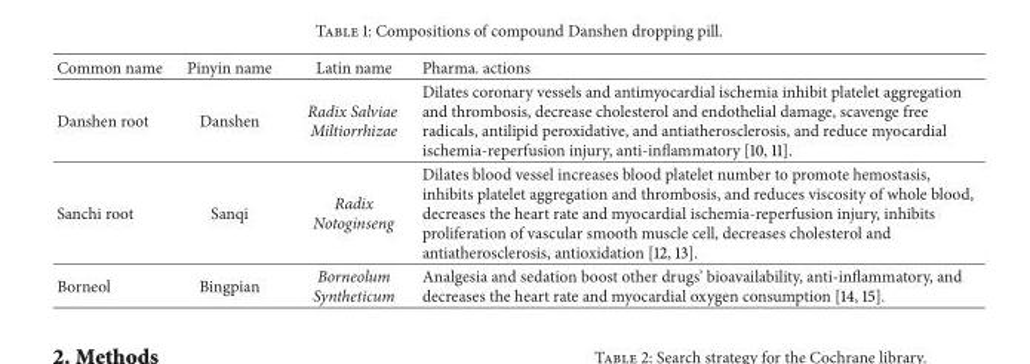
<table><thead><tr><td>Common name</td><td>Pinyin name</td><td>Latin name</td><td>Pharma. actions</td></tr></thead><tbody><tr><td>Danshen root</td><td>Danshen</td><td>Radix Salviae Miltiorrhizae</td><td>Dilates coronary vessels and antimyocardial ischemia inhibit platelet aggregation and thrombosis, decrease cholesterol and endothelial damage, scavenge free radicals, antilipid peroxidative, and antiatherosclerosis, and reduce myocardial ischemia-reperfusion injury, anti-inflammatory [10, 11].</td></tr><tr><td>Sanchi root</td><td>Sanqi</td><td>Radix Notoginseng</td><td>Dilates blood vessel increases blood platelet number to promote hemostasis, inhibits platelet aggregation and thrombosis, and reduces viscosity of whole blood, decreases the heart rate and myocardial ischemia-reperfusion injury, inhibits proliferation of vascular smooth muscle cell, decreases cholesterol and antiatherosclerosis, antioxidation [12, 13].</td></tr><tr><td>Borneol</td><td>Bingpian</td><td>Borneolum Syntheticum</td><td>Analgesia and sedation boost other drugs’ bioavailability, anti-inflammatory, and decreases the heart rate and myocardial oxygen consumption [14, 15].</td></tr></tbody></table>